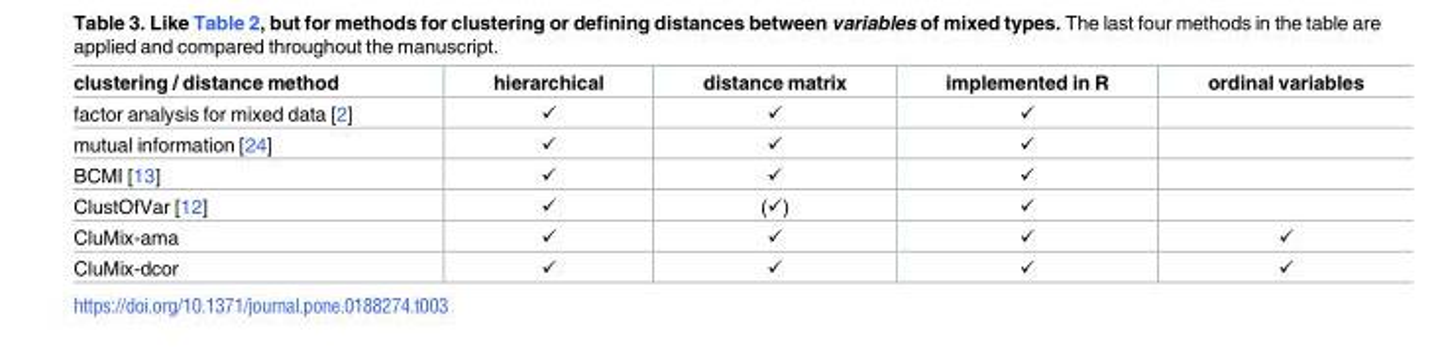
<table><thead><tr><td>clustering / distance method</td><td>hierarchical</td><td>distance matrix</td><td>implemented in R</td><td>ordinal variables</td></tr></thead><tbody><tr><td>factor analysis for mixed data [2]</td><td>✓</td><td>✓</td><td>✓</td><td></td></tr><tr><td>mutual information [24]</td><td>✓</td><td>✓</td><td>✓</td><td></td></tr><tr><td>BCMI [13]</td><td>✓</td><td>✓</td><td>✓</td><td></td></tr><tr><td>ClustOfVar [12]</td><td>✓</td><td>(✓)</td><td>✓</td><td></td></tr><tr><td>CluMix-ama</td><td>✓</td><td>✓</td><td>✓</td><td>✓</td></tr><tr><td>CluMix-dcor</td><td>✓</td><td>✓</td><td>✓</td><td>✓</td></tr></tbody></table>